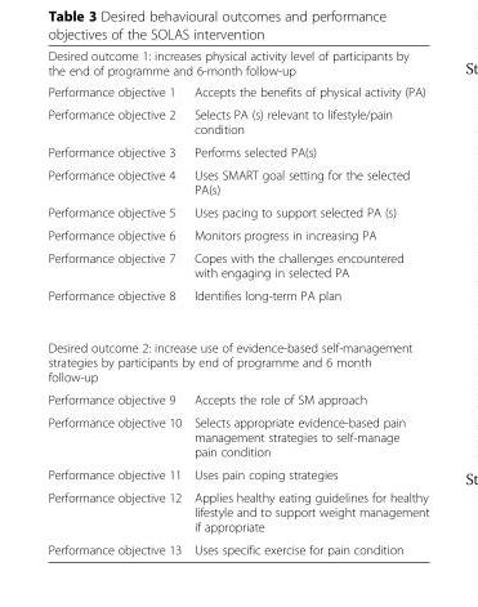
<table><thead><tr><td colspan="2">Desired outcome 1: increases physical activity level of participants by the end of programme and 6-month follow-up</td></tr><tr><td>Performance objective 1</td><td>Accepts the benefits of physical activity (PA)</td></tr></thead><tbody><tr><td>Performance objective 2</td><td>Selects PA (s) relevant to lifestyle/pain condition</td></tr><tr><td>Performance objective 3</td><td>Performs selected PA(s)</td></tr><tr><td>Performance objective 4</td><td>Uses SMART goal setting for the selected PA(s)</td></tr><tr><td>Performance objective 5</td><td>Uses pacing to support selected PA (s)</td></tr><tr><td>Performance objective 6</td><td>Monitors progress in increasing PA</td></tr><tr><td>Performance objective 7</td><td>Copes with the challenges encountered with engaging in selected PA</td></tr><tr><td>Performance objective 8</td><td>Identifies long-term PA plan</td></tr><tr><td colspan="2">Desired outcome 2: increase use of evidence-based self-management strategies by participants by end of programme and 6 month follow-up</td></tr><tr><td>Performance objective 9</td><td>Accepts the role of SM approach</td></tr><tr><td>Performance objective 10</td><td>Selects appropriate evidence-based pain management strategies to self-manage pain condition</td></tr><tr><td>Performance objective 11</td><td>Uses pain coping strategies</td></tr><tr><td>Performance objective 12</td><td>Applies healthy eating guidelines for healthy lifestyle and to support weight management if appropriate</td></tr><tr><td>Performance objective 13</td><td>Uses specific exercise for pain condition</td></tr></tbody></table>